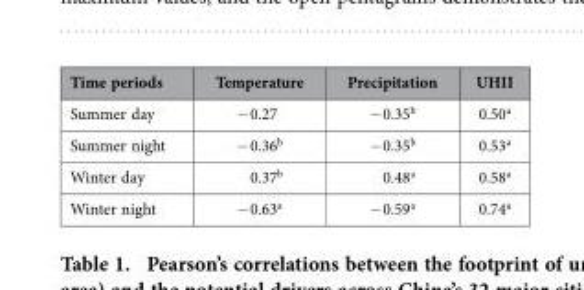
<table><thead><tr><td>Time periods</td><td>Temperature</td><td>Precipitation</td><td>UHII</td></tr></thead><tbody><tr><td>Summer day</td><td>− 0.27</td><td>− 0.35<sup>b</sup></td><td>0.50<sup>a</sup></td></tr><tr><td>Summer night</td><td>− 0.36<sup>b</sup></td><td>− 0.35<sup>b</sup></td><td>0.53<sup>a</sup></td></tr><tr><td>Winter day</td><td>0.37<sup>b</sup></td><td>0.48<sup>a</sup></td><td>0.58<sup>a</sup></td></tr><tr><td>Winter night</td><td>− 0.63<sup>a</sup></td><td>− 0.59<sup>a</sup></td><td>0.74<sup>a</sup></td></tr></tbody></table>